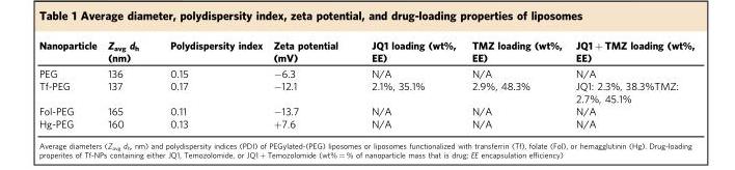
<table><thead><tr><td>Nanoparticle</td><td>Z<sub>avg</sub> d<sub>h</sub> (nm)</td><td>Polydispersity index</td><td>Zeta potential (mV)</td><td>JQ1 loading (wt%, EE)</td><td>TMZ loading (wt%, EE)</td><td>JQ1 + TMZ loading (wt%, EE)</td></tr></thead><tbody><tr><td>PEG</td><td>136</td><td>0.15</td><td>−6.3</td><td>N/A</td><td>N/A</td><td>N/A</td></tr><tr><td>Tf-PEG</td><td>137</td><td>0.17</td><td>−12.1</td><td>2.1%, 35.1%</td><td>2.9%, 48.3%</td><td>JQ1: 2.3%, 38.3%TMZ: 2.7%, 45.1%</td></tr><tr><td>Fol-PEG</td><td>165</td><td>0.11</td><td>−13.7</td><td>N/A</td><td>N/A</td><td>N/A</td></tr><tr><td>Hg-PEG</td><td>160</td><td>0.13</td><td>+7.6</td><td>N/A</td><td>N/A</td><td>N/A</td></tr></tbody></table>